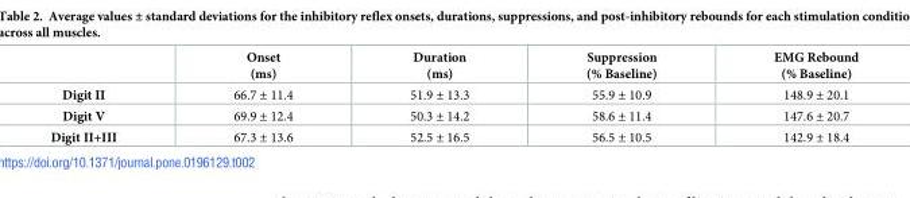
<table><thead><tr><td></td><td>Onset (ms)</td><td>Duration (ms)</td><td>Suppression (% Baseline)</td><td>EMG Rebound (% Baseline)</td></tr></thead><tbody><tr><td>Digit II</td><td>66.7 ± 11.4</td><td>51.9 ± 13.3</td><td>55.9 ± 10.9</td><td>148.9 ± 20.1</td></tr><tr><td>Digit V</td><td>69.9 ± 12.4</td><td>50.3 ± 14.2</td><td>58.6 ± 11.4</td><td>147.6 ± 20.7</td></tr><tr><td>Digit II+III</td><td>67.3 ± 13.6</td><td>52.5 ± 16.5</td><td>56.5 ± 10.5</td><td>142.9 ± 18.4</td></tr></tbody></table>